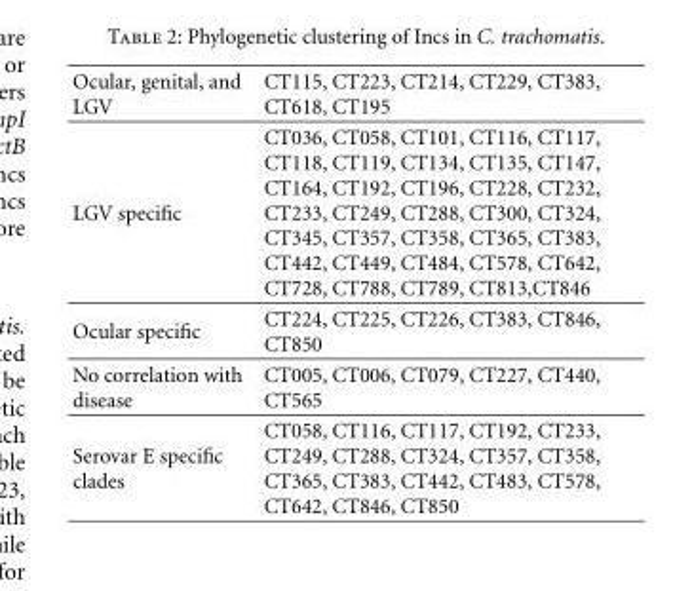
<table><thead><tr><td>Ocular, genital, and LGV</td><td>CT115, CT223, CT214, CT229, CT383, CT618, CT195</td></tr></thead><tbody><tr><td>LGV specific</td><td>CT036, CT058, CT101, CT116, CT117, CT118, CT119, CT134, CT135, CT147, CT164, CT192, CT196, CT228, CT232, CT233, CT249, CT288, CT300, CT324, CT345, CT357, CT358, CT365, CT383, CT442, CT449, CT484, CT578, CT642, CT728, CT788, CT789, CT813,CT846</td></tr><tr><td>Ocular specific</td><td>CT224, CT225, CT226, CT383, CT846, CT850</td></tr><tr><td>No correlation with disease</td><td>CT005, CT006, CT079, CT227, CT440, CT565</td></tr><tr><td>Serovar E specific clades</td><td>CT058, CT116, CT117, CT192, CT233, CT249, CT288, CT324, CT357, CT358, CT365, CT383, CT442, CT483, CT578, CT642, CT846, CT850</td></tr></tbody></table>